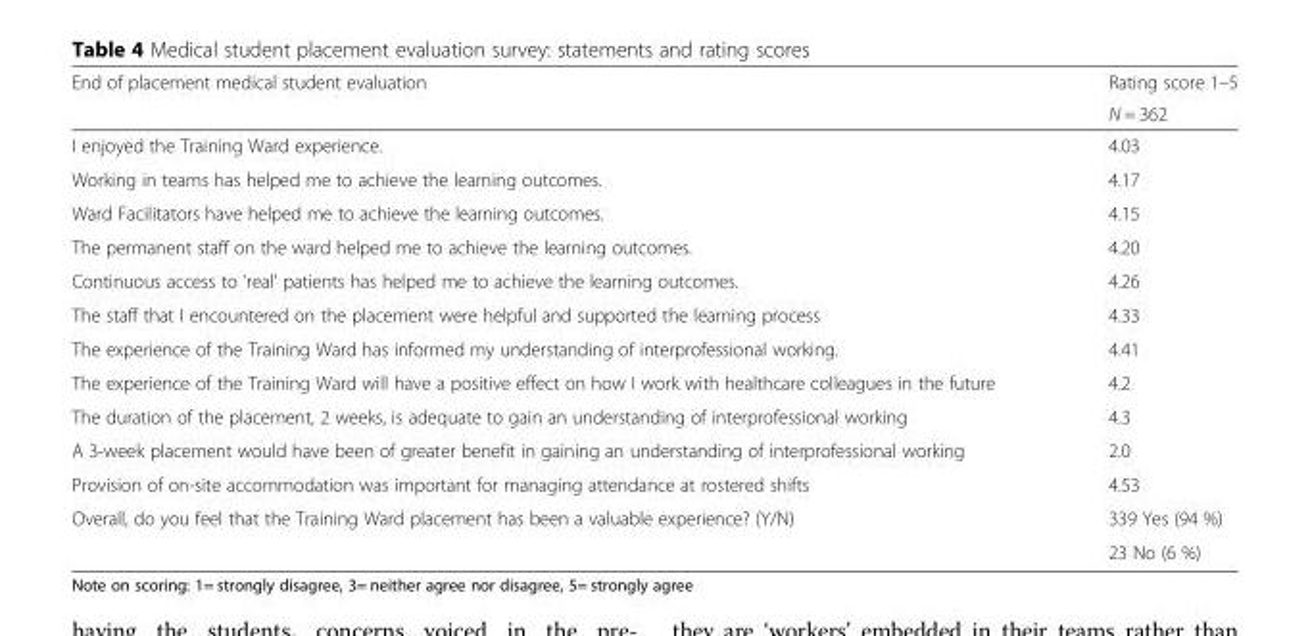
<table><thead><tr><td rowspan="2">End of placement medical student evaluation</td><td rowspan="2">Rating score 1–5 N = 362</td></tr><tr></tr></thead><tbody><tr><td>I enjoyed the Training Ward experience.</td><td>4.03</td></tr><tr><td>Working in teams has helped me to achieve the learning outcomes.</td><td>4.17</td></tr><tr><td>Ward Facilitators have helped me to achieve the learning outcomes.</td><td>4.15</td></tr><tr><td>The permanent staff on the ward helped me to achieve the learning outcomes.</td><td>4.20</td></tr><tr><td>Continuous access to &#x27;real&#x27; patients has helped me to achieve the learning outcomes.</td><td>4.26</td></tr><tr><td>The staff that I encountered on the placement were helpful and supported the learning process</td><td>4.33</td></tr><tr><td>The experience of the Training Ward has informed my understanding of interprofessional working.</td><td>4.41</td></tr><tr><td>The experience of the Training Ward will have a positive effect on how I work with healthcare colleagues in the future</td><td>4.2</td></tr><tr><td>The duration of the placement, 2 weeks, is adequate to gain an understanding of interprofessional working</td><td>4.3</td></tr><tr><td>A 3-week placement would have been of greater benefit in gaining an understanding of interprofessional working</td><td>2.0</td></tr><tr><td>Provision of on-site accommodation was important for managing attendance at rostered shifts</td><td>4.53</td></tr><tr><td rowspan="2">Overall, do you feel that the Training Ward placement has been a valuable experience? (Y/N)</td><td>339 Yes (94 %)</td></tr><tr><td>23 No (6 %)</td></tr></tbody></table>